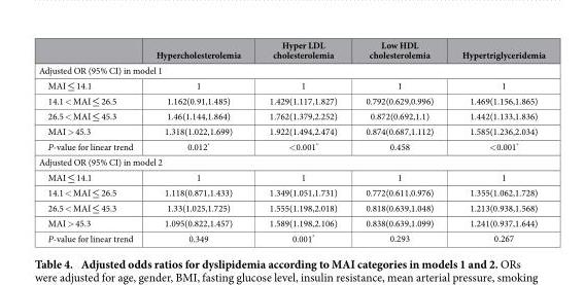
<table><thead><tr><td></td><td>Hypercholesterolemia</td><td>Hyper LDL cholesterolemia</td><td>Low HDL cholesterolemia</td><td>Hypertriglyceridemia</td></tr></thead><tbody><tr><td colspan="5">Adjusted OR (95% CI) in model 1</td></tr><tr><td>MAI ≤ 14.1</td><td>1</td><td>1</td><td>1</td><td>1</td></tr><tr><td>14.1 &lt; MAI ≤ 26.5</td><td>1.162(0.91,1.485)</td><td>1.429(1.117,1.827)</td><td>0.792(0.629,0.996)</td><td>1.469(1.156,1.865)</td></tr><tr><td>26.5 &lt; MAI ≤ 45.3</td><td>1.46(1.144,1.864)</td><td>1.762(1.379,2.252)</td><td>0.872(0.692,1.1)</td><td>1.442(1.133,1.836)</td></tr><tr><td>MAI &gt; 45.3</td><td>1.318(1.022,1.699)</td><td>1.922(1.494,2.474)</td><td>0.874(0.687,1.112)</td><td>1.585(1.236,2.034)</td></tr><tr><td>P-value for linear trend</td><td>0.012*</td><td>&lt; 0.001*</td><td>0.458</td><td>&lt; 0.001*</td></tr><tr><td colspan="5">Adjusted OR (95% CI) in model 2</td></tr><tr><td>MAI ≤ 14.1</td><td>1</td><td>1</td><td>1</td><td>1</td></tr><tr><td>14.1 &lt; MAI ≤ 26.5</td><td>1.118(0.871,1.433)</td><td>1.349(1.051,1.731)</td><td>0.772(0.611,0.976)</td><td>1.355(1.062,1.728)</td></tr><tr><td>26.5 &lt; MAI ≤ 45.3</td><td>1.33(1.025,1.725)</td><td>1.555(1.198,2.018)</td><td>0.818(0.639,1.048)</td><td>1.213(0.938,1.568)</td></tr><tr><td>MAI &gt; 45.3</td><td>1.095(0.822,1.457)</td><td>1.589(1.198,2.106)</td><td>0.838(0.639,1.099)</td><td>1.241(0.937,1.644)</td></tr><tr><td>P-value for linear trend</td><td>0.349</td><td>0.001*</td><td>0.293</td><td>0.267</td></tr></tbody></table>